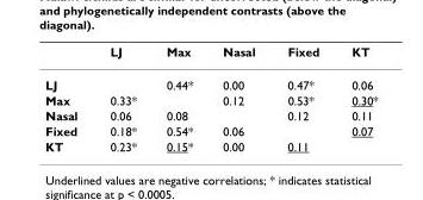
<table><thead><tr><td></td><td>LJ</td><td>Max</td><td>Nasal</td><td>Fixed</td><td>KT</td></tr></thead><tbody><tr><td>LJ</td><td></td><td>0.44*</td><td>0.00</td><td>0.47*</td><td>0.06</td></tr><tr><td>Max</td><td>0.33*</td><td></td><td>0.12</td><td>0.53*</td><td>0.30*</td></tr><tr><td>Nasal</td><td>0.06</td><td>0.08</td><td></td><td>0.12</td><td>0.11</td></tr><tr><td>Fixed</td><td>0.18*</td><td>0.54*</td><td>0.06</td><td></td><td>0.07</td></tr><tr><td>KT</td><td>0.23*</td><td>0.15*</td><td>0.00</td><td>0.11</td><td></td></tr></tbody></table>